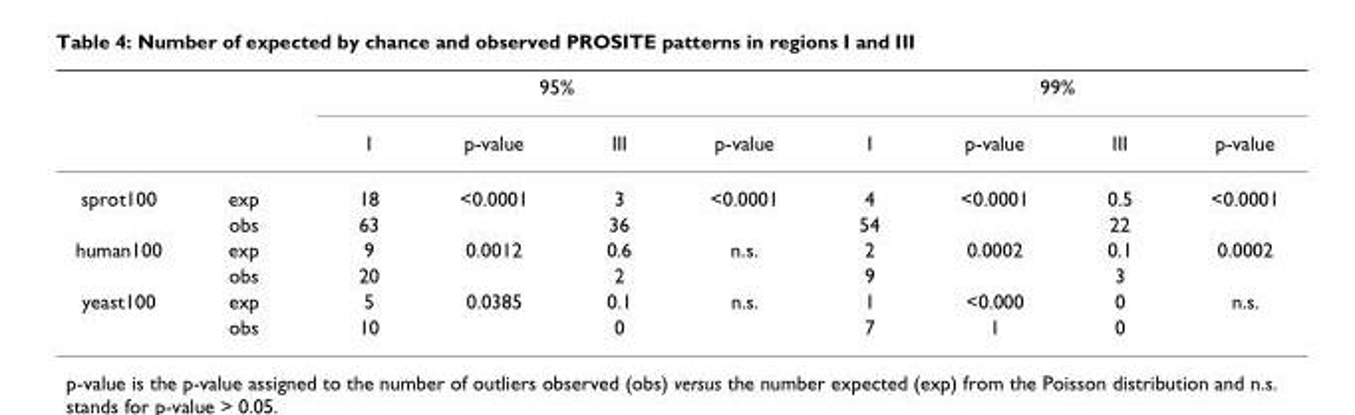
<table><thead><tr><td rowspan="2"></td><td rowspan="2"></td><td colspan="4">95%</td><td colspan="4">99%</td></tr><tr><td>I</td><td>p-value</td><td>III</td><td>p-value</td><td>I</td><td>p-value</td><td>III</td><td>p-value</td></tr></thead><tbody><tr><td rowspan="2">sprot100</td><td>exp</td><td>18</td><td>&lt;0.0001</td><td>3</td><td>&lt;0.0001</td><td>4</td><td>&lt;0.0001</td><td>0.5</td><td>&lt;0.0001</td></tr><tr><td>obs</td><td>63</td><td></td><td>36</td><td></td><td>54</td><td></td><td>22</td><td></td></tr><tr><td rowspan="2">human100</td><td>exp</td><td>9</td><td>0.0012</td><td>0.6</td><td>n.s.</td><td>2</td><td>0.0002</td><td>0.1</td><td>0.0002</td></tr><tr><td>obs</td><td>20</td><td></td><td>2</td><td></td><td>9</td><td></td><td>3</td><td></td></tr><tr><td rowspan="2">yeast100</td><td>exp</td><td>5</td><td>0.0385</td><td>0.1</td><td>n.s.</td><td>1</td><td>&lt;0.000</td><td>0</td><td>n.s.</td></tr><tr><td>obs</td><td>10</td><td></td><td>0</td><td></td><td>7</td><td>1</td><td>0</td><td></td></tr></tbody></table>